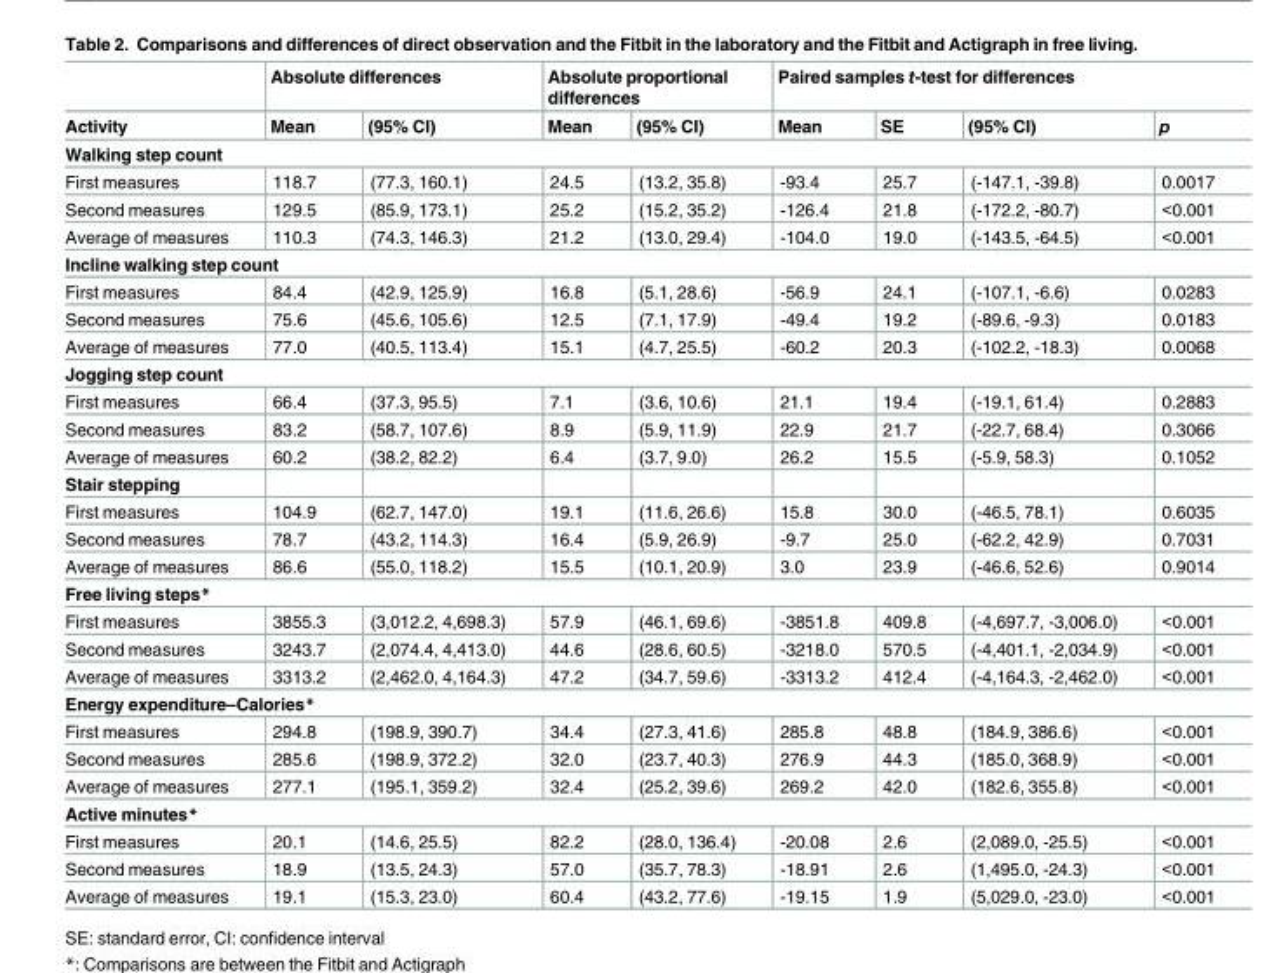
<table><thead><tr><td rowspan="2">Activity</td><td colspan="2">Absolute differences</td><td colspan="2">Absolute proportional differences</td><td colspan="4">Paired samples t-test for differences</td></tr><tr><td>Mean</td><td>(95% CI)</td><td>Mean</td><td>(95% CI)</td><td>Mean</td><td>SE</td><td>(95% CI)</td><td>p</td></tr></thead><tbody><tr><td colspan="9">Walking step count</td></tr><tr><td>First measures</td><td>118.7</td><td>(77.3, 160.1)</td><td>24.5</td><td>(13.2, 35.8)</td><td>-93.4</td><td>25.7</td><td>(-147.1, -39.8)</td><td>0.0017</td></tr><tr><td>Second measures</td><td>129.5</td><td>(85.9, 173.1)</td><td>25.2</td><td>(15.2, 35.2)</td><td>-126.4</td><td>21.8</td><td>(-172.2, -80.7)</td><td>&lt;0.001</td></tr><tr><td>Average of measures</td><td>110.3</td><td>(74.3, 146.3)</td><td>21.2</td><td>(13.0, 29.4)</td><td>-104.0</td><td>19.0</td><td>(-143.5, -64.5)</td><td>&lt;0.001</td></tr><tr><td colspan="9">Incline walking step count</td></tr><tr><td>First measures</td><td>84.4</td><td>(42.9, 125.9)</td><td>16.8</td><td>(5.1, 28.6)</td><td>-56.9</td><td>24.1</td><td>(-107.1, -6.6)</td><td>0.0283</td></tr><tr><td>Second measures</td><td>75.6</td><td>(45.6, 105.6)</td><td>12.5</td><td>(7.1, 17.9)</td><td>-49.4</td><td>19.2</td><td>(-89.6, -9.3)</td><td>0.0183</td></tr><tr><td>Average of measures</td><td>77.0</td><td>(40.5, 113.4)</td><td>15.1</td><td>(4.7, 25.5)</td><td>-60.2</td><td>20.3</td><td>(-102.2, -18.3)</td><td>0.0068</td></tr><tr><td colspan="9">Jogging step count</td></tr><tr><td>First measures</td><td>66.4</td><td>(37.3, 95.5)</td><td>7.1</td><td>(3.6, 10.6)</td><td>21.1</td><td>19.4</td><td>(-19.1, 61.4)</td><td>0.2883</td></tr><tr><td>Second measures</td><td>83.2</td><td>(58.7, 107.6)</td><td>8.9</td><td>(5.9, 11.9)</td><td>22.9</td><td>21.7</td><td>(-22.7, 68.4)</td><td>0.3066</td></tr><tr><td>Average of measures</td><td>60.2</td><td>(38.2, 82.2)</td><td>6.4</td><td>(3.7, 9.0)</td><td>26.2</td><td>15.5</td><td>(-5.9, 58.3)</td><td>0.1052</td></tr><tr><td colspan="9">Stair stepping</td></tr><tr><td>First measures</td><td>104.9</td><td>(62.7, 147.0)</td><td>19.1</td><td>(11.6, 26.6)</td><td>15.8</td><td>30.0</td><td>(-46.5, 78.1)</td><td>0.6035</td></tr><tr><td>Second measures</td><td>78.7</td><td>(43.2, 114.3)</td><td>16.4</td><td>(5.9, 26.9)</td><td>-9.7</td><td>25.0</td><td>(-62.2, 42.9)</td><td>0.7031</td></tr><tr><td>Average of measures</td><td>86.6</td><td>(55.0, 118.2)</td><td>15.5</td><td>(10.1, 20.9)</td><td>3.0</td><td>23.9</td><td>(-46.6, 52.6)</td><td>0.9014</td></tr><tr><td colspan="9">Free living steps*</td></tr><tr><td>First measures</td><td>3855.3</td><td>(3,012.2, 4,698.3)</td><td>57.9</td><td>(46.1, 69.6)</td><td>-3851.8</td><td>409.8</td><td>(-4,697.7, -3,006.0)</td><td>&lt;0.001</td></tr><tr><td>Second measures</td><td>3243.7</td><td>(2,074.4, 4,413.0)</td><td>44.6</td><td>(28.6, 60.5)</td><td>-3218.0</td><td>570.5</td><td>(-4,401.1, -2,034.9)</td><td>&lt;0.001</td></tr><tr><td>Average of measures</td><td>3313.2</td><td>(2,462.0, 4,164.3)</td><td>47.2</td><td>(34.7, 59.6)</td><td>-3313.2</td><td>412.4</td><td>(-4,164.3, -2,462.0)</td><td>&lt;0.001</td></tr><tr><td colspan="9">Energy expenditure–Calories*</td></tr><tr><td>First measures</td><td>294.8</td><td>(198.9, 390.7)</td><td>34.4</td><td>(27.3, 41.6)</td><td>285.8</td><td>48.8</td><td>(184.9, 386.6)</td><td>&lt;0.001</td></tr><tr><td>Second measures</td><td>285.6</td><td>(198.9, 372.2)</td><td>32.0</td><td>(23.7, 40.3)</td><td>276.9</td><td>44.3</td><td>(185.0, 368.9)</td><td>&lt;0.001</td></tr><tr><td>Average of measures</td><td>277.1</td><td>(195.1, 359.2)</td><td>32.4</td><td>(25.2, 39.6)</td><td>269.2</td><td>42.0</td><td>(182.6, 355.8)</td><td>&lt;0.001</td></tr><tr><td colspan="9">Active minutes*</td></tr><tr><td>First measures</td><td>20.1</td><td>(14.6, 25.5)</td><td>82.2</td><td>(28.0, 136.4)</td><td>-20.08</td><td>2.6</td><td>(2,089.0, -25.5)</td><td>&lt;0.001</td></tr><tr><td>Second measures</td><td>18.9</td><td>(13.5, 24.3)</td><td>57.0</td><td>(35.7, 78.3)</td><td>-18.91</td><td>2.6</td><td>(1,495.0, -24.3)</td><td>&lt;0.001</td></tr><tr><td>Average of measures</td><td>19.1</td><td>(15.3, 23.0)</td><td>60.4</td><td>(43.2, 77.6)</td><td>-19.15</td><td>1.9</td><td>(5,029.0, -23.0)</td><td>&lt;0.001</td></tr></tbody></table>